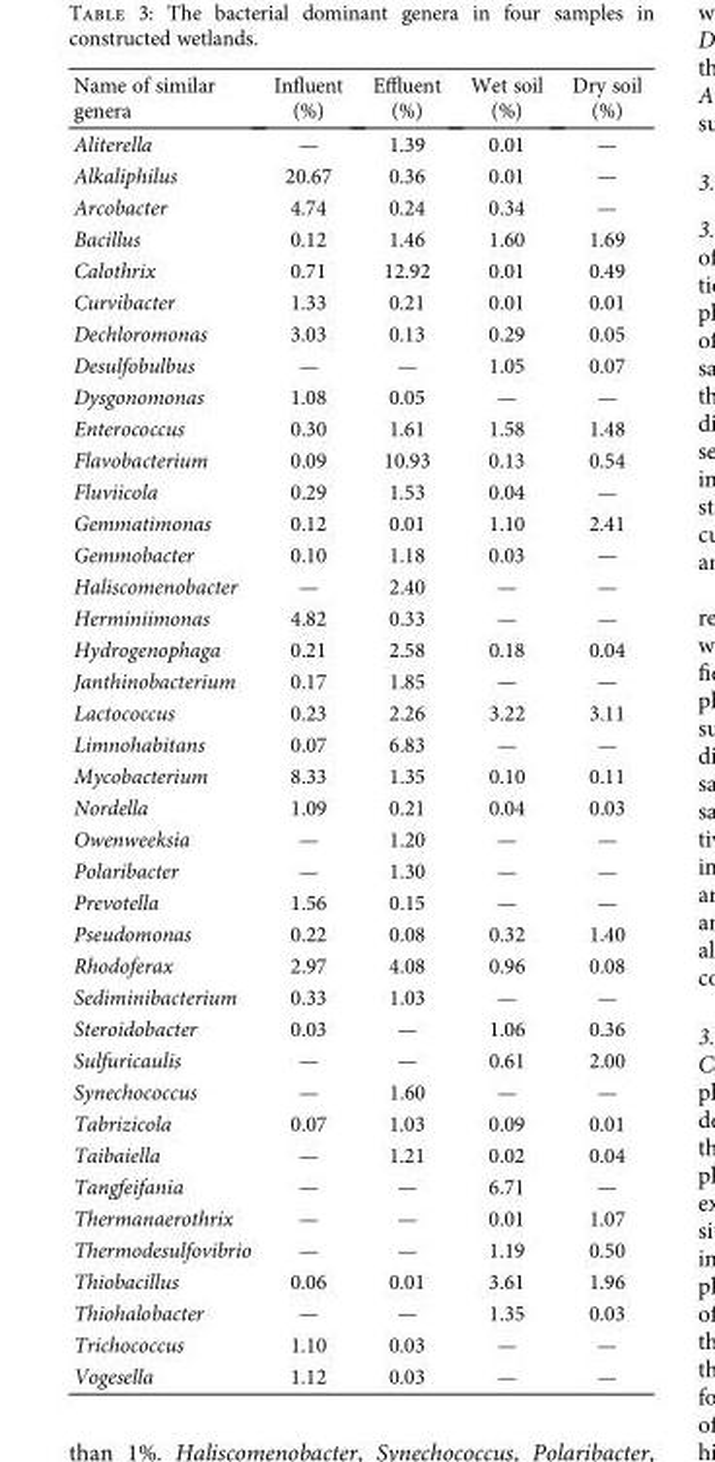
<table><thead><tr><td>Name of similar genera</td><td>Influent (%)</td><td>Effluent (%)</td><td>Wet soil (%)</td><td>Dry soil (%)</td></tr></thead><tbody><tr><td>Aliterella</td><td>—</td><td>1.39</td><td>0.01</td><td>—</td></tr><tr><td>Alkaliphilus</td><td>20.67</td><td>0.36</td><td>0.01</td><td>—</td></tr><tr><td>Arcobacter</td><td>4.74</td><td>0.24</td><td>0.34</td><td>—</td></tr><tr><td>Bacillus</td><td>0.12</td><td>1.46</td><td>1.60</td><td>1.69</td></tr><tr><td>Calothrix</td><td>0.71</td><td>12.92</td><td>0.01</td><td>0.49</td></tr><tr><td>Curvibacter</td><td>1.33</td><td>0.21</td><td>0.01</td><td>0.01</td></tr><tr><td>Dechloromonas</td><td>3.03</td><td>0.13</td><td>0.29</td><td>0.05</td></tr><tr><td>Desulfobulbus</td><td>—</td><td>—</td><td>1.05</td><td>0.07</td></tr><tr><td>Dysgonomonas</td><td>1.08</td><td>0.05</td><td>—</td><td>—</td></tr><tr><td>Enterococcus</td><td>0.30</td><td>1.61</td><td>1.58</td><td>1.48</td></tr><tr><td>Flavobacterium</td><td>0.09</td><td>10.93</td><td>0.13</td><td>0.54</td></tr><tr><td>Fluviicola</td><td>0.29</td><td>1.53</td><td>0.04</td><td>—</td></tr><tr><td>Gemmatimonas</td><td>0.12</td><td>0.01</td><td>1.10</td><td>2.41</td></tr><tr><td>Gemmobacter</td><td>0.10</td><td>1.18</td><td>0.03</td><td>—</td></tr><tr><td>Haliscomenobacter</td><td>—</td><td>2.40</td><td>—</td><td>—</td></tr><tr><td>Herminiimonas</td><td>4.82</td><td>0.33</td><td>—</td><td>—</td></tr><tr><td>Hydrogenophaga</td><td>0.21</td><td>2.58</td><td>0.18</td><td>0.04</td></tr><tr><td>Janthinobacterium</td><td>0.17</td><td>1.85</td><td>—</td><td>—</td></tr><tr><td>Lactococcus</td><td>0.23</td><td>2.26</td><td>3.22</td><td>3.11</td></tr><tr><td>Limnohabitans</td><td>0.07</td><td>6.83</td><td>—</td><td>—</td></tr><tr><td>Mycobacterium</td><td>8.33</td><td>1.35</td><td>0.10</td><td>0.11</td></tr><tr><td>Nordella</td><td>1.09</td><td>0.21</td><td>0.04</td><td>0.03</td></tr><tr><td>Owenweeksia</td><td>—</td><td>1.20</td><td>—</td><td>—</td></tr><tr><td>Polaribacter</td><td>—</td><td>1.30</td><td>—</td><td>—</td></tr><tr><td>Prevotella</td><td>1.56</td><td>0.15</td><td>—</td><td>—</td></tr><tr><td>Pseudomonas</td><td>0.22</td><td>0.08</td><td>0.32</td><td>1.40</td></tr><tr><td>Rhodoferax</td><td>2.97</td><td>4.08</td><td>0.96</td><td>0.08</td></tr><tr><td>Sediminibacterium</td><td>0.33</td><td>1.03</td><td>—</td><td>—</td></tr><tr><td>Steroidobacter</td><td>0.03</td><td>—</td><td>1.06</td><td>0.36</td></tr><tr><td>Sulfuricaulis</td><td>—</td><td>—</td><td>0.61</td><td>2.00</td></tr><tr><td>Synechococcus</td><td>—</td><td>1.60</td><td>—</td><td>—</td></tr><tr><td>Tabrizicola</td><td>0.07</td><td>1.03</td><td>0.09</td><td>0.01</td></tr><tr><td>Taibaiella</td><td>—</td><td>1.21</td><td>0.02</td><td>0.04</td></tr><tr><td>Tangfeifania</td><td>—</td><td>—</td><td>6.71</td><td>—</td></tr><tr><td>Thermanaerothrix</td><td>—</td><td>—</td><td>0.01</td><td>1.07</td></tr><tr><td>Thermodesulfovibrio</td><td>—</td><td>—</td><td>1.19</td><td>0.50</td></tr><tr><td>Thiobacillus</td><td>0.06</td><td>0.01</td><td>3.61</td><td>1.96</td></tr><tr><td>Thiohalobacter</td><td>—</td><td>—</td><td>1.35</td><td>0.03</td></tr><tr><td>Trichococcus</td><td>1.10</td><td>0.03</td><td>—</td><td>—</td></tr><tr><td>Vogesella</td><td>1.12</td><td>0.03</td><td>—</td><td>—</td></tr></tbody></table>